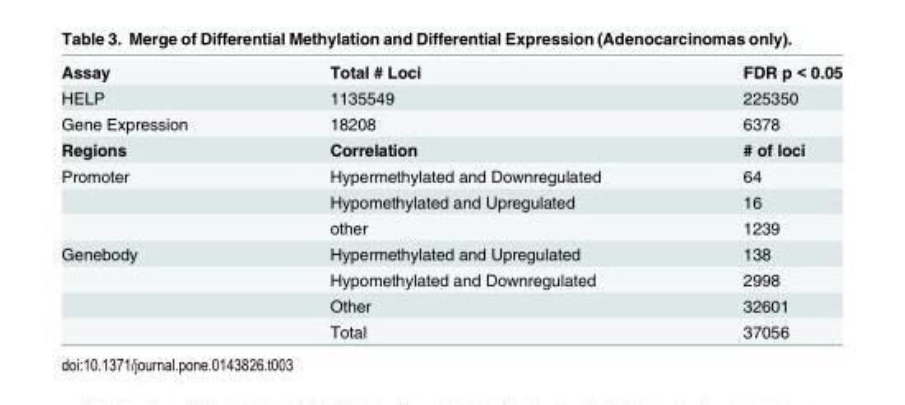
<table><tbody><tr><td>Assay</td><td>Total # Loci</td><td>FDR p &lt; 0.05</td></tr><tr><td>HELP</td><td>1135549</td><td>225350</td></tr><tr><td>Gene Expression</td><td>18208</td><td>6378</td></tr><tr><td>Regions</td><td>Correlation</td><td># of loci</td></tr><tr><td rowspan="3">Promoter</td><td>Hypermethylated and Downregulated</td><td>64</td></tr><tr><td>Hypomethylated and Upregulated</td><td>16</td></tr><tr><td>other</td><td>1239</td></tr><tr><td rowspan="4">Genebody</td><td>Hypermethylated and Upregulated</td><td>138</td></tr><tr><td>Hypomethylated and Downregulated</td><td>2998</td></tr><tr><td>Other</td><td>32601</td></tr><tr><td>Total</td><td>37056</td></tr></tbody></table>